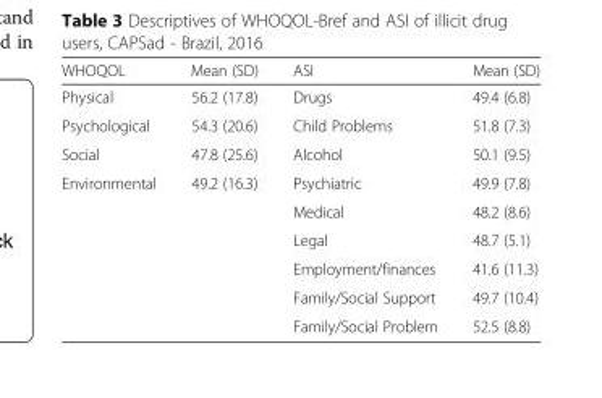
<table><thead><tr><td>WHOQOL</td><td>Mean (SD)</td><td>ASI</td><td>Mean (SD)</td></tr></thead><tbody><tr><td>Physical</td><td>56.2 (17.8)</td><td>Drugs</td><td>49.4 (6.8)</td></tr><tr><td>Psychological</td><td>54.3 (20.6)</td><td>Child Problems</td><td>51.8 (7.3)</td></tr><tr><td>Social</td><td>47.8 (25.6)</td><td>Alcohol</td><td>50.1 (9.5)</td></tr><tr><td rowspan="6">Environmental</td><td>49.2 (16.3)</td><td>Psychiatric</td><td>49.9 (7.8)</td></tr><tr><td></td><td>Medical</td><td>48.2 (8.6)</td></tr><tr><td></td><td>Legal</td><td>48.7 (5.1)</td></tr><tr><td></td><td>Employment/finances</td><td>41.6 (11.3)</td></tr><tr><td></td><td>Family/Social Support</td><td>49.7 (10.4)</td></tr><tr><td></td><td>Family/Social Problem</td><td>52.5 (8.8)</td></tr></tbody></table>